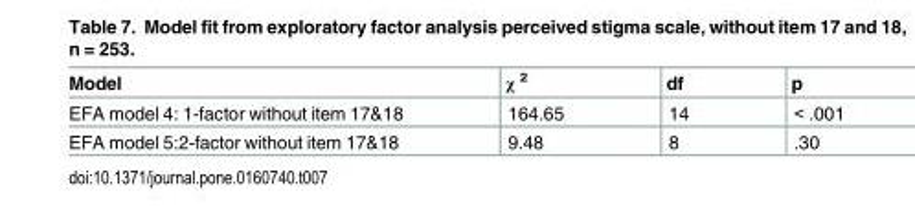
<table><thead><tr><td>Model</td><td>χ <sup>2</sup></td><td>df</td><td>p</td></tr></thead><tbody><tr><td>EFA model 4: 1-factor without item 17&amp;18</td><td>164.65</td><td>14</td><td>&lt; .001</td></tr><tr><td>EFA model 5:2-factor without item 17&amp;18</td><td>9.48</td><td>8</td><td>.30</td></tr></tbody></table>